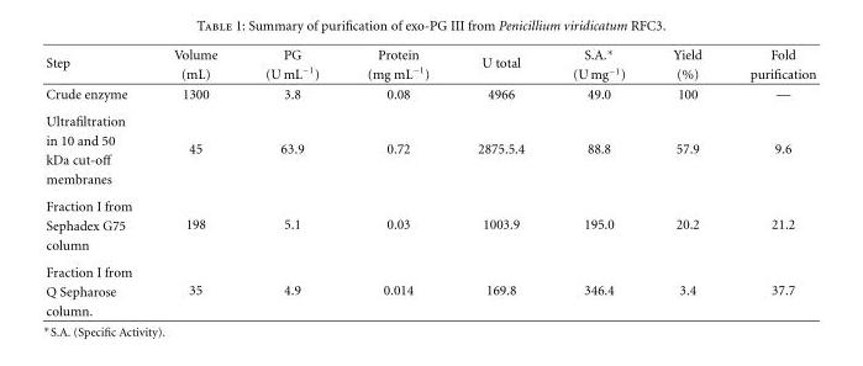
<table><thead><tr><td rowspan="2">Step</td><td rowspan="2">Volume (mL)</td><td rowspan="2">PG (U mL<sup>−1</sup>)</td><td rowspan="2">Protein (mg mL<sup>−1</sup>)</td><td rowspan="2">U total</td><td rowspan="2">S.A.∗ (U mg−1)</td><td rowspan="2">Yield (%)</td><td rowspan="2">Fold purification</td></tr><tr></tr></thead><tbody><tr><td>Crude enzyme</td><td>1300</td><td>3.8</td><td>0.08</td><td>4966</td><td>49.0</td><td>100</td><td>—</td></tr><tr><td>Ultrafiltration</td><td rowspan="4">45</td><td rowspan="4">63.9</td><td rowspan="4">0.72</td><td rowspan="4">2875.5.4</td><td rowspan="4">88.8</td><td rowspan="4">57.9</td><td rowspan="4">9.6</td></tr><tr><td>in 10 and 50</td></tr><tr><td>kDa cut-off</td></tr><tr><td>membranes</td></tr><tr><td>Fraction I from</td><td rowspan="3">198</td><td rowspan="3">5.1</td><td rowspan="3">0.03</td><td rowspan="3">1003.9</td><td rowspan="3">195.0</td><td rowspan="3">20.2</td><td rowspan="3">21.2</td></tr><tr><td>Sephadex G75</td></tr><tr><td>column</td></tr><tr><td>Fraction I from</td><td rowspan="3">35</td><td rowspan="3">4.9</td><td rowspan="3">0.014</td><td rowspan="3">169.8</td><td rowspan="3">346.4</td><td rowspan="3">3.4</td><td rowspan="3">37.7</td></tr><tr><td>Q Sepharose</td></tr><tr><td>column.</td></tr></tbody></table>